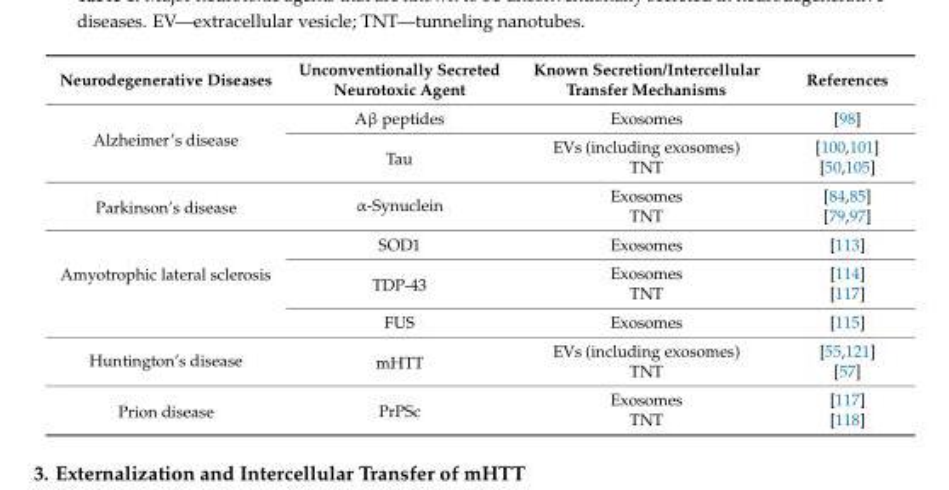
<table><thead><tr><td>Neurodegenerative Diseases</td><td>Unconventionally Secreted Neurotoxic Agent</td><td>Known Secretion/Intercellular Transfer Mechanisms</td><td>References</td></tr></thead><tbody><tr><td rowspan="3">Alzheimer’s disease</td><td>Aβ peptides</td><td>Exosomes</td><td>[98]</td></tr><tr><td rowspan="2">Tau</td><td>EVs (including exosomes)</td><td>[100,101]</td></tr><tr><td>TNT</td><td>[50,105]</td></tr><tr><td rowspan="2">Parkinson’s disease</td><td rowspan="2">α-Synuclein</td><td>Exosomes</td><td>[84,85]</td></tr><tr><td>TNT</td><td>[79,97]</td></tr><tr><td rowspan="4">Amyotrophic lateral sclerosis</td><td>SOD1</td><td>Exosomes</td><td>[113]</td></tr><tr><td rowspan="2">TDP-43</td><td>Exosomes</td><td>[114]</td></tr><tr><td>TNT</td><td>[117]</td></tr><tr><td>FUS</td><td>Exosomes</td><td>[115]</td></tr><tr><td rowspan="2">Huntington’s disease</td><td rowspan="2">mHTT</td><td>EVs (including exosomes)</td><td>[55,121]</td></tr><tr><td>TNT</td><td>[57]</td></tr><tr><td rowspan="2">Prion disease</td><td rowspan="2">PrPSc</td><td>Exosomes</td><td>[117]</td></tr><tr><td>TNT</td><td>[118]</td></tr></tbody></table>